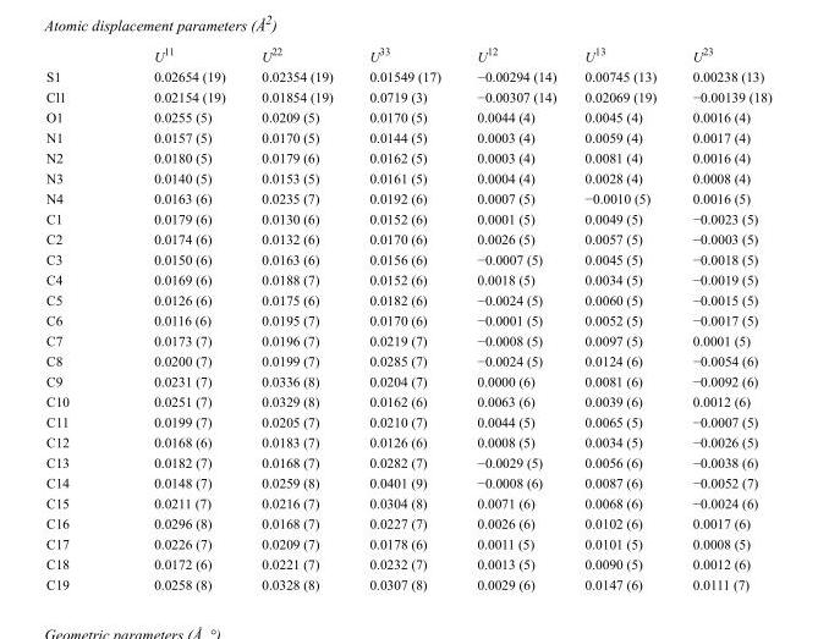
<table><thead><tr><td></td><td>U<sup>11</sup></td><td>U<sup>22</sup></td><td>U<sup>33</sup></td><td>U<sup>12</sup></td><td>U<sup>13</sup></td><td>U<sup>23</sup></td></tr></thead><tbody><tr><td>S1</td><td>0.02654 (19)</td><td>0.02354 (19)</td><td>0.01549 (17)</td><td>−0.00294 (14)</td><td>0.00745 (13)</td><td>0.00238 (13)</td></tr><tr><td>Cl1</td><td>0.02154 (19)</td><td>0.01854 (19)</td><td>0.0719 (3)</td><td>−0.00307 (14)</td><td>0.02069 (19)</td><td>−0.00139 (18)</td></tr><tr><td>O1</td><td>0.0255 (5)</td><td>0.0209 (5)</td><td>0.0170 (5)</td><td>0.0044 (4)</td><td>0.0045 (4)</td><td>0.0016 (4)</td></tr><tr><td>N1</td><td>0.0157 (5)</td><td>0.0170 (5)</td><td>0.0144 (5)</td><td>0.0003 (4)</td><td>0.0059 (4)</td><td>0.0017 (4)</td></tr><tr><td>N2</td><td>0.0180 (5)</td><td>0.0179 (6)</td><td>0.0162 (5)</td><td>0.0003 (4)</td><td>0.0081 (4)</td><td>0.0016 (4)</td></tr><tr><td>N3</td><td>0.0140 (5)</td><td>0.0153 (5)</td><td>0.0161 (5)</td><td>0.0004 (4)</td><td>0.0028 (4)</td><td>0.0008 (4)</td></tr><tr><td>N4</td><td>0.0163 (6)</td><td>0.0235 (7)</td><td>0.0192 (6)</td><td>0.0007 (5)</td><td>−0.0010 (5)</td><td>0.0016 (5)</td></tr><tr><td>C1</td><td>0.0179 (6)</td><td>0.0130 (6)</td><td>0.0152 (6)</td><td>0.0001 (5)</td><td>0.0049 (5)</td><td>−0.0023 (5)</td></tr><tr><td>C2</td><td>0.0174 (6)</td><td>0.0132 (6)</td><td>0.0170 (6)</td><td>0.0026 (5)</td><td>0.0057 (5)</td><td>−0.0003 (5)</td></tr><tr><td>C3</td><td>0.0150 (6)</td><td>0.0163 (6)</td><td>0.0156 (6)</td><td>−0.0007 (5)</td><td>0.0045 (5)</td><td>−0.0018 (5)</td></tr><tr><td>C4</td><td>0.0169 (6)</td><td>0.0188 (7)</td><td>0.0152 (6)</td><td>0.0018 (5)</td><td>0.0034 (5)</td><td>−0.0019 (5)</td></tr><tr><td>C5</td><td>0.0126 (6)</td><td>0.0175 (6)</td><td>0.0182 (6)</td><td>−0.0024 (5)</td><td>0.0060 (5)</td><td>−0.0015 (5)</td></tr><tr><td>C6</td><td>0.0116 (6)</td><td>0.0195 (7)</td><td>0.0170 (6)</td><td>−0.0001 (5)</td><td>0.0052 (5)</td><td>−0.0017 (5)</td></tr><tr><td>C7</td><td>0.0173 (7)</td><td>0.0196 (7)</td><td>0.0219 (7)</td><td>−0.0008 (5)</td><td>0.0097 (5)</td><td>0.0001 (5)</td></tr><tr><td>C8</td><td>0.0200 (7)</td><td>0.0199 (7)</td><td>0.0285 (7)</td><td>−0.0024 (5)</td><td>0.0124 (6)</td><td>−0.0054 (6)</td></tr><tr><td>C9</td><td>0.0231 (7)</td><td>0.0336 (8)</td><td>0.0204 (7)</td><td>0.0000 (6)</td><td>0.0081 (6)</td><td>−0.0092 (6)</td></tr><tr><td>C10</td><td>0.0251 (7)</td><td>0.0329 (8)</td><td>0.0162 (6)</td><td>0.0063 (6)</td><td>0.0039 (6)</td><td>0.0012 (6)</td></tr><tr><td>C11</td><td>0.0199 (7)</td><td>0.0205 (7)</td><td>0.0210 (7)</td><td>0.0044 (5)</td><td>0.0065 (5)</td><td>−0.0007 (5)</td></tr><tr><td>C12</td><td>0.0168 (6)</td><td>0.0183 (7)</td><td>0.0126 (6)</td><td>0.0008 (5)</td><td>0.0034 (5)</td><td>−0.0026 (5)</td></tr><tr><td>C13</td><td>0.0182 (7)</td><td>0.0168 (7)</td><td>0.0282 (7)</td><td>−0.0029 (5)</td><td>0.0056 (6)</td><td>−0.0038 (6)</td></tr><tr><td>C14</td><td>0.0148 (7)</td><td>0.0259 (8)</td><td>0.0401 (9)</td><td>−0.0008 (6)</td><td>0.0087 (6)</td><td>−0.0052 (7)</td></tr><tr><td>C15</td><td>0.0211 (7)</td><td>0.0216 (7)</td><td>0.0304 (8)</td><td>0.0071 (6)</td><td>0.0068 (6)</td><td>−0.0024 (6)</td></tr><tr><td>C16</td><td>0.0296 (8)</td><td>0.0168 (7)</td><td>0.0227 (7)</td><td>0.0026 (6)</td><td>0.0102 (6)</td><td>0.0017 (6)</td></tr><tr><td>C17</td><td>0.0226 (7)</td><td>0.0209 (7)</td><td>0.0178 (6)</td><td>0.0011 (5)</td><td>0.0101 (5)</td><td>0.0008 (5)</td></tr><tr><td>C18</td><td>0.0172 (6)</td><td>0.0221 (7)</td><td>0.0232 (7)</td><td>0.0013 (5)</td><td>0.0090 (5)</td><td>0.0012 (6)</td></tr><tr><td>C19</td><td>0.0258 (8)</td><td>0.0328 (8)</td><td>0.0307 (8)</td><td>0.0029 (6)</td><td>0.0147 (6)</td><td>0.0111 (7)</td></tr></tbody></table>